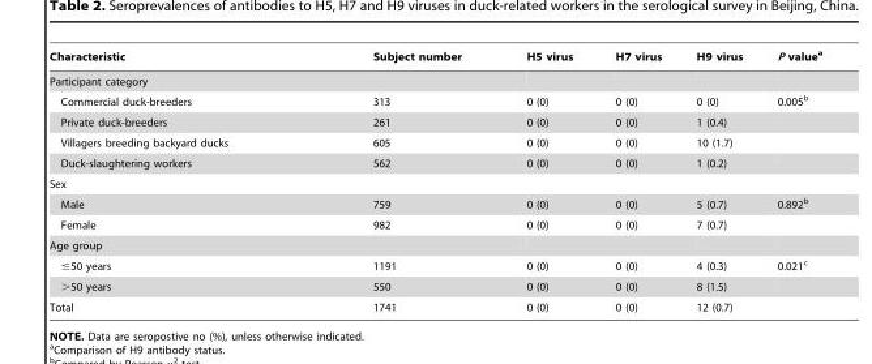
<table><thead><tr><td>Characteristic</td><td>Subject number</td><td>H5 virus</td><td>H7 virus</td><td>H9 virus</td><td>P value<sup>a</sup></td></tr></thead><tbody><tr><td colspan="6">Participant category</td></tr><tr><td>Commercial duck-breeders</td><td>313</td><td>0 (0)</td><td>0 (0)</td><td>0 (0)</td><td>0.005<sup>b</sup></td></tr><tr><td>Private duck-breeders</td><td>261</td><td>0 (0)</td><td>0 (0)</td><td>1 (0.4)</td><td></td></tr><tr><td>Villagers breeding backyard ducks</td><td>605</td><td>0 (0)</td><td>0 (0)</td><td>10 (1.7)</td><td></td></tr><tr><td>Duck-slaughtering workers</td><td>562</td><td>0 (0)</td><td>0 (0)</td><td>1 (0.2)</td><td></td></tr><tr><td colspan="6">Sex</td></tr><tr><td>Male</td><td>759</td><td>0 (0)</td><td>0 (0)</td><td>5 (0.7)</td><td>0.892<sup>b</sup></td></tr><tr><td>Female</td><td>982</td><td>0 (0)</td><td>0 (0)</td><td>7 (0.7)</td><td></td></tr><tr><td colspan="6">Age group</td></tr><tr><td>≤50 years</td><td>1191</td><td>0 (0)</td><td>0 (0)</td><td>4 (0.3)</td><td>0.021<sup>c</sup></td></tr><tr><td>&gt;50 years</td><td>550</td><td>0 (0)</td><td>0 (0)</td><td>8 (1.5)</td><td></td></tr><tr><td>Total</td><td>1741</td><td>0 (0)</td><td>0 (0)</td><td>12 (0.7)</td><td></td></tr></tbody></table>